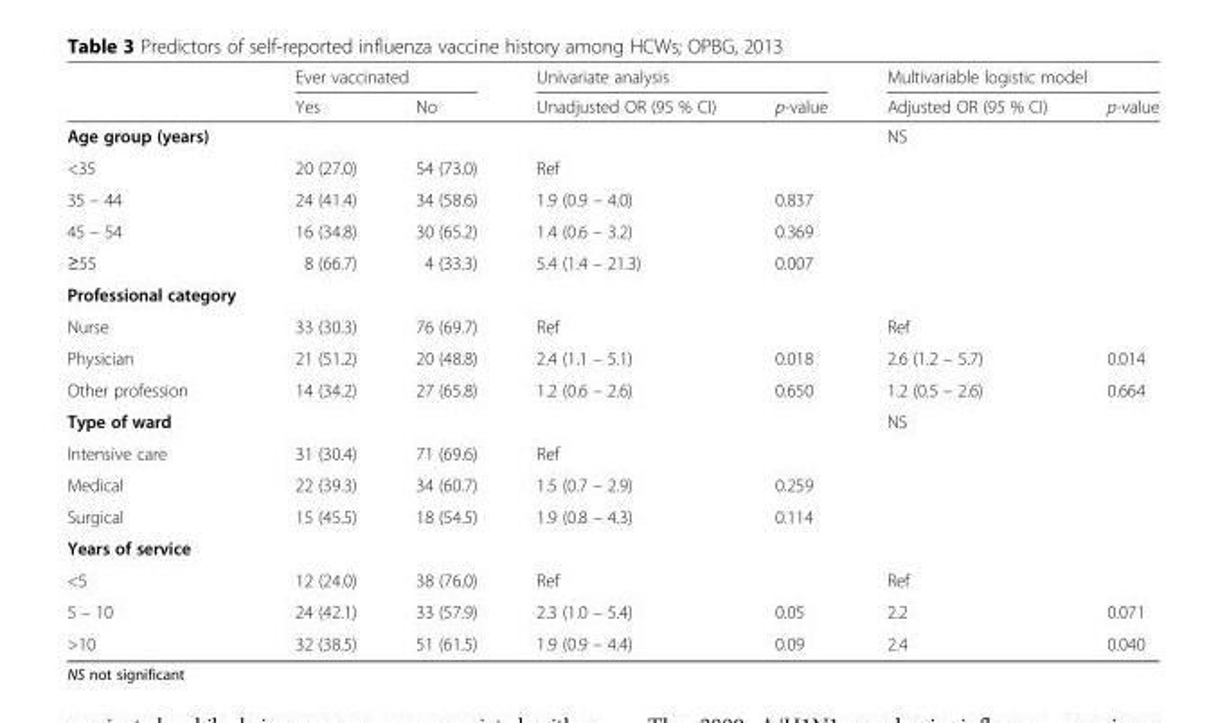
<table><thead><tr><td rowspan="2"></td><td colspan="2">Ever vaccinated</td><td colspan="2">Univariate analysis</td><td colspan="2">Multivariable logistic model</td></tr><tr><td>Yes</td><td>No</td><td>Unadjusted OR (95 % CI)</td><td>p-value</td><td>Adjusted OR (95 % CI)</td><td>p-value</td></tr></thead><tbody><tr><td colspan="5">Age group (years)</td><td rowspan="2" colspan="2">NS</td></tr><tr><td>&lt;35</td><td>20 (27.0)</td><td>54 (73.0)</td><td>Ref</td><td></td></tr><tr><td>35 – 44</td><td>24 (41.4)</td><td>34 (58.6)</td><td>1.9 (0.9 – 4.0)</td><td>0.837</td><td></td><td></td></tr><tr><td>45 – 54</td><td>16 (34.8)</td><td>30 (65.2)</td><td>1.4 (0.6 – 3.2)</td><td>0.369</td><td></td><td></td></tr><tr><td>≥55</td><td>8 (66.7)</td><td>4 (33.3)</td><td>5.4 (1.4 – 21.3)</td><td>0.007</td><td></td><td></td></tr><tr><td colspan="7">Professional category</td></tr><tr><td>Nurse</td><td>33 (30.3)</td><td>76 (69.7)</td><td>Ref</td><td></td><td>Ref</td><td></td></tr><tr><td>Physician</td><td>21 (51.2)</td><td>20 (48.8)</td><td>2.4 (1.1 – 5.1)</td><td>0.018</td><td>2.6 (1.2 – 5.7)</td><td>0.014</td></tr><tr><td>Other profession</td><td>14 (34.2)</td><td>27 (65.8)</td><td>1.2 (0.6 – 2.6)</td><td>0.650</td><td>1.2 (0.5 – 2.6)</td><td>0.664</td></tr><tr><td>Type of ward</td><td></td><td></td><td></td><td></td><td colspan="2">NS</td></tr><tr><td>Intensive care</td><td>31 (30.4)</td><td>71 (69.6)</td><td>Ref</td><td></td><td></td><td></td></tr><tr><td>Medical</td><td>22 (39.3)</td><td>34 (60.7)</td><td>1.5 (0.7 – 2.9)</td><td>0.259</td><td></td><td></td></tr><tr><td>Surgical</td><td>15 (45.5)</td><td>18 (54.5)</td><td>1.9 (0.8 – 4.3)</td><td>0.114</td><td></td><td></td></tr><tr><td colspan="7">Years of service</td></tr><tr><td>&lt;5</td><td>12 (24.0)</td><td>38 (76.0)</td><td>Ref</td><td></td><td>Ref</td><td></td></tr><tr><td>5 – 10</td><td>24 (42.1)</td><td>33 (57.9)</td><td>2.3 (1.0 – 5.4)</td><td>0.05</td><td>2.2</td><td>0.071</td></tr><tr><td>&gt;10</td><td>32 (38.5)</td><td>51 (61.5)</td><td>1.9 (0.9 – 4.4)</td><td>0.09</td><td>2.4</td><td>0.040</td></tr></tbody></table>